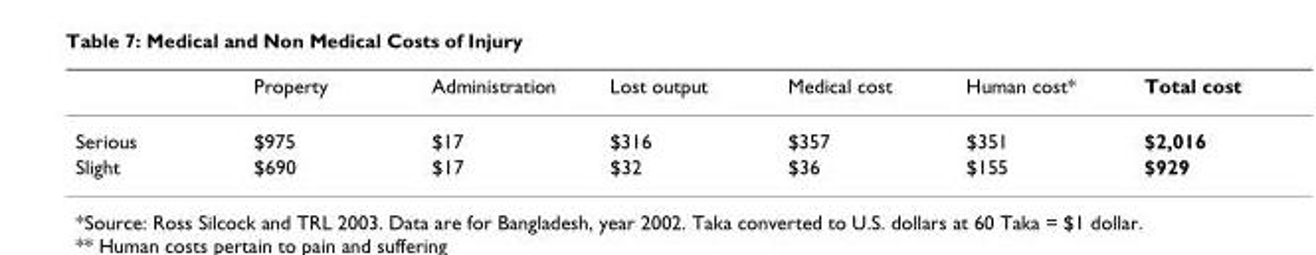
<table><thead><tr><td></td><td>Property</td><td>Administration</td><td>Lost output</td><td>Medical cost</td><td>Human cost*</td><td>Total cost</td></tr></thead><tbody><tr><td>Serious</td><td>$975</td><td>$17</td><td>$316</td><td>$357</td><td>$351</td><td>$2,016</td></tr><tr><td>Slight</td><td>$690</td><td>$17</td><td>$32</td><td>$36</td><td>$155</td><td>$929</td></tr></tbody></table>